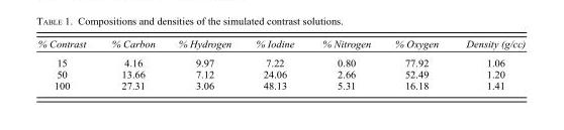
<table><thead><tr><td>% Contrast</td><td>% Carbon</td><td>% Hydrogen</td><td>% Iodine</td><td>% Nitrogen</td><td>% Oxygen</td><td>Density (g/cc)</td></tr></thead><tbody><tr><td>15</td><td>4.16</td><td>9.97</td><td>7.22</td><td>0.80</td><td>77.92</td><td>1.06</td></tr><tr><td>50</td><td>13.66</td><td>7.12</td><td>24.06</td><td>2.66</td><td>52.49</td><td>1.20</td></tr><tr><td>100</td><td>27.31</td><td>3.06</td><td>48.13</td><td>5.31</td><td>16.18</td><td>1.41</td></tr></tbody></table>